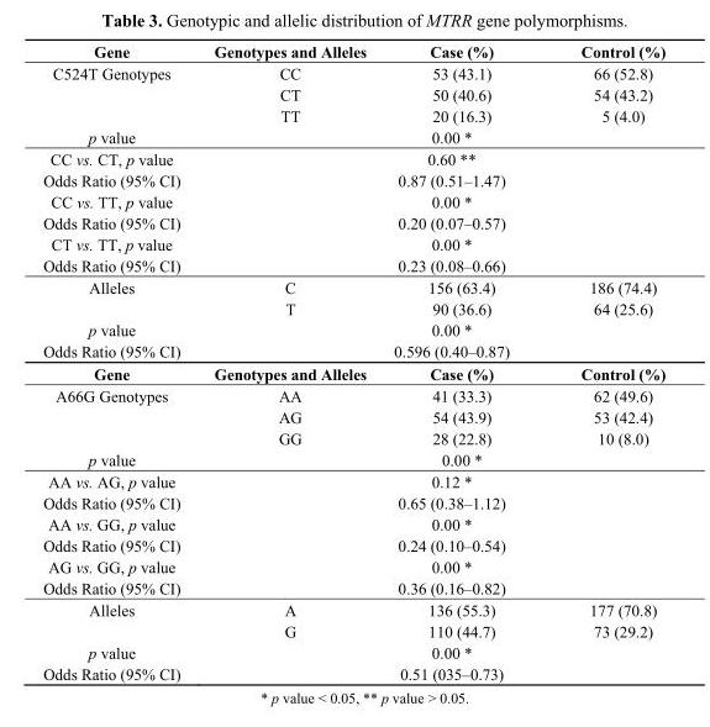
<table><thead><tr><td>Gene</td><td>Genotypes and Alleles</td><td>Case (%)</td><td>Control (%)</td></tr></thead><tbody><tr><td rowspan="3">C524T Genotypes</td><td>CC</td><td>53 (43.1)</td><td>66 (52.8)</td></tr><tr><td>CT</td><td>50 (40.6)</td><td>54 (43.2)</td></tr><tr><td>TT</td><td>20 (16.3)</td><td>5 (4.0)</td></tr><tr><td>p value</td><td></td><td>0.00 *</td><td></td></tr><tr><td>CC vs. CT, p value</td><td></td><td>0.60 **</td><td></td></tr><tr><td>Odds Ratio (95% CI)</td><td></td><td>0.87 (0.51–1.47)</td><td></td></tr><tr><td>CC vs. TT, p value</td><td></td><td>0.00 *</td><td></td></tr><tr><td>Odds Ratio (95% CI)</td><td></td><td>0.20 (0.07–0.57)</td><td></td></tr><tr><td>CT vs. TT, p value</td><td></td><td>0.00 *</td><td></td></tr><tr><td>Odds Ratio (95% CI)</td><td></td><td>0.23 (0.08–0.66)</td><td></td></tr><tr><td rowspan="2">Alleles</td><td>C</td><td>156 (63.4)</td><td>186 (74.4)</td></tr><tr><td>T</td><td>90 (36.6)</td><td>64 (25.6)</td></tr><tr><td>p value</td><td></td><td>0.00 *</td><td></td></tr><tr><td>Odds Ratio (95% CI)</td><td></td><td>0.596 (0.40–0.87)</td><td></td></tr><tr><td>Gene</td><td>Genotypes and Alleles</td><td>Case (%)</td><td>Control (%)</td></tr><tr><td rowspan="3">A66G Genotypes</td><td>AA</td><td>41 (33.3)</td><td>62 (49.6)</td></tr><tr><td>AG</td><td>54 (43.9)</td><td>53 (42.4)</td></tr><tr><td>GG</td><td>28 (22.8)</td><td>10 (8.0)</td></tr><tr><td>p value</td><td></td><td>0.00 *</td><td></td></tr><tr><td>AA vs. AG, p value</td><td></td><td>0.12 *</td><td></td></tr><tr><td>Odds Ratio (95% CI)</td><td></td><td>0.65 (0.38–1.12)</td><td></td></tr><tr><td>AA vs. GG, p value</td><td></td><td>0.00 *</td><td></td></tr><tr><td>Odds Ratio (95% CI)</td><td></td><td>0.24 (0.10–0.54)</td><td></td></tr><tr><td>AG vs. GG, p value</td><td></td><td>0.00 *</td><td></td></tr><tr><td>Odds Ratio (95% CI)</td><td></td><td>0.36 (0.16–0.82)</td><td></td></tr><tr><td rowspan="2">Alleles</td><td>A</td><td>136 (55.3)</td><td>177 (70.8)</td></tr><tr><td>G</td><td>110 (44.7)</td><td>73 (29.2)</td></tr><tr><td>p value</td><td></td><td>0.00 *</td><td></td></tr><tr><td>Odds Ratio (95% CI)</td><td></td><td>0.51 (035–0.73)</td><td></td></tr></tbody></table>